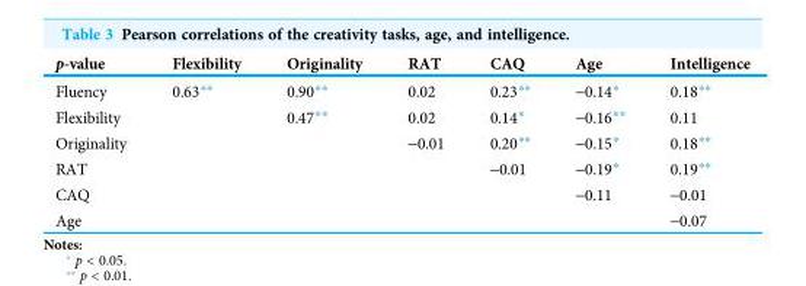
<table><thead><tr><td>p-value</td><td>Flexibility</td><td>Originality</td><td>RAT</td><td>CAQ</td><td>Age</td><td>Intelligence</td></tr></thead><tbody><tr><td>Fluency</td><td>0.63**</td><td>0.90**</td><td>0.02</td><td>0.23**</td><td>-0.14*</td><td>0.18**</td></tr><tr><td>Flexibility</td><td></td><td>0.47**</td><td>0.02</td><td>0.14*</td><td>-0.16**</td><td>0.11</td></tr><tr><td>Originality</td><td></td><td></td><td>-0.01</td><td>0.20**</td><td>-0.15*</td><td>0.18**</td></tr><tr><td>RAT</td><td></td><td></td><td></td><td>-0.01</td><td>-0.19*</td><td>0.19**</td></tr><tr><td>CAQ</td><td></td><td></td><td></td><td></td><td>-0.11</td><td>-0.01</td></tr><tr><td>Age</td><td></td><td></td><td></td><td></td><td></td><td>-0.07</td></tr></tbody></table>